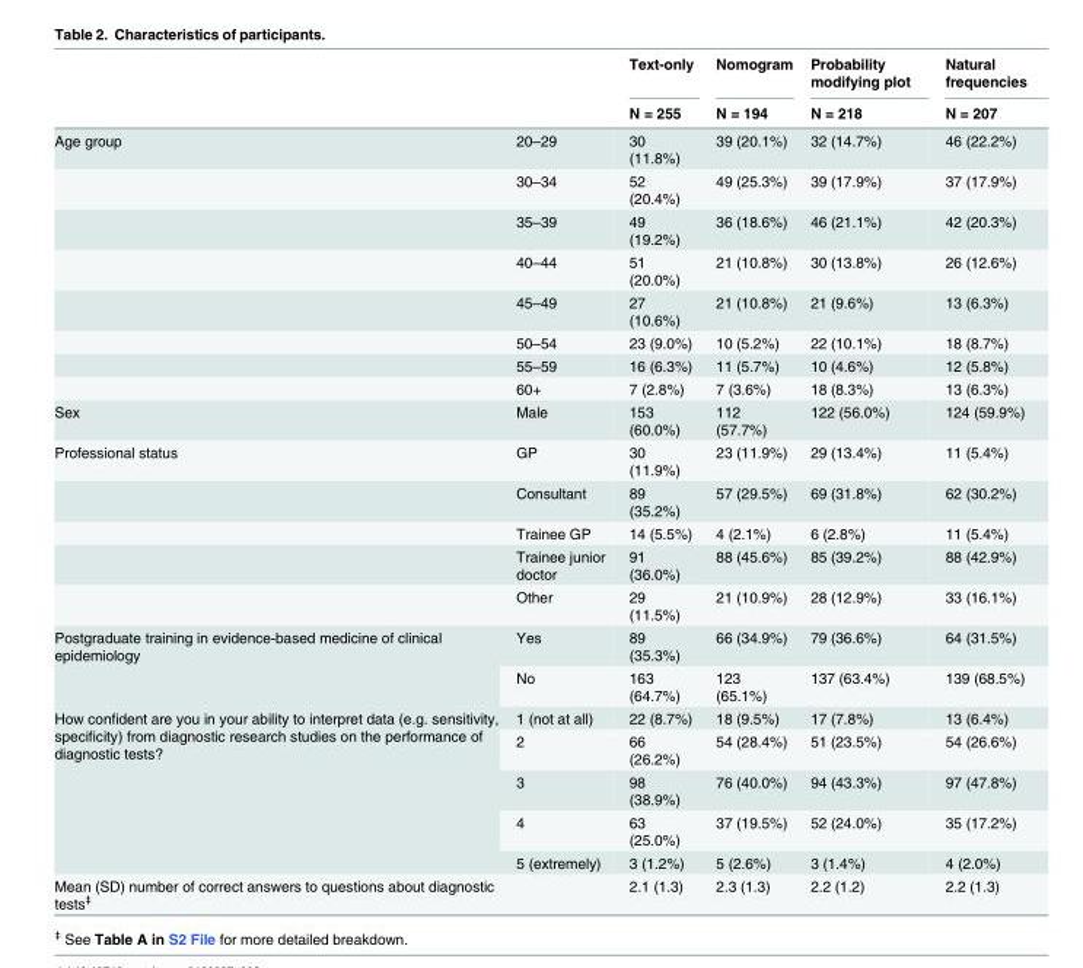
<table><thead><tr><td rowspan="2"></td><td rowspan="2"></td><td rowspan="2">Text-only N = 255</td><td rowspan="2">Nomogram N = 194</td><td rowspan="2">Probability modifying plot N = 218</td><td rowspan="2">Natural frequencies N = 207</td></tr><tr></tr></thead><tbody><tr><td rowspan="8">Age group</td><td>20–29</td><td>30 (11.8%)</td><td>39 (20.1%)</td><td>32 (14.7%)</td><td>46 (22.2%)</td></tr><tr><td>30–34</td><td>52 (20.4%)</td><td>49 (25.3%)</td><td>39 (17.9%)</td><td>37 (17.9%)</td></tr><tr><td>35–39</td><td>49 (19.2%)</td><td>36 (18.6%)</td><td>46 (21.1%)</td><td>42 (20.3%)</td></tr><tr><td>40–44</td><td>51 (20.0%)</td><td>21 (10.8%)</td><td>30 (13.8%)</td><td>26 (12.6%)</td></tr><tr><td>45–49</td><td>27 (10.6%)</td><td>21 (10.8%)</td><td>21 (9.6%)</td><td>13 (6.3%)</td></tr><tr><td>50–54</td><td>23 (9.0%)</td><td>10 (5.2%)</td><td>22 (10.1%)</td><td>18 (8.7%)</td></tr><tr><td>55–59</td><td>16 (6.3%)</td><td>11 (5.7%)</td><td>10 (4.6%)</td><td>12 (5.8%)</td></tr><tr><td>60+</td><td>7 (2.8%)</td><td>7 (3.6%)</td><td>18 (8.3%)</td><td>13 (6.3%)</td></tr><tr><td>Sex</td><td>Male</td><td>153 (60.0%)</td><td>112 (57.7%)</td><td>122 (56.0%)</td><td>124 (59.9%)</td></tr><tr><td rowspan="5">Professional status</td><td>GP</td><td>30 (11.9%)</td><td>23 (11.9%)</td><td>29 (13.4%)</td><td>11 (5.4%)</td></tr><tr><td>Consultant</td><td>89 (35.2%)</td><td>57 (29.5%)</td><td>69 (31.8%)</td><td>62 (30.2%)</td></tr><tr><td>Trainee GP</td><td>14 (5.5%)</td><td>4 (2.1%)</td><td>6 (2.8%)</td><td>11 (5.4%)</td></tr><tr><td>Trainee junior doctor</td><td>91 (36.0%)</td><td>88 (45.6%)</td><td>85 (39.2%)</td><td>88 (42.9%)</td></tr><tr><td>Other</td><td>29 (11.5%)</td><td>21 (10.9%)</td><td>28 (12.9%)</td><td>33 (16.1%)</td></tr><tr><td rowspan="2">Postgraduate training in evidence-based medicine of clinical epidemiology</td><td>Yes</td><td>89 (35.3%)</td><td>66 (34.9%)</td><td>79 (36.6%)</td><td>64 (31.5%)</td></tr><tr><td>No</td><td>163 (64.7%)</td><td>123 (65.1%)</td><td>137 (63.4%)</td><td>139 (68.5%)</td></tr><tr><td rowspan="5">How confident are you in your ability to interpret data (e.g. sensitivity, specificity) from diagnostic research studies on the performance of diagnostic tests?</td><td>1 (not at all)</td><td>22 (8.7%)</td><td>18 (9.5%)</td><td>17 (7.8%)</td><td>13 (6.4%)</td></tr><tr><td>2</td><td>66 (26.2%)</td><td>54 (28.4%)</td><td>51 (23.5%)</td><td>54 (26.6%)</td></tr><tr><td>3</td><td>98 (38.9%)</td><td>76 (40.0%)</td><td>94 (43.3%)</td><td>97 (47.8%)</td></tr><tr><td>4</td><td>63 (25.0%)</td><td>37 (19.5%)</td><td>52 (24.0%)</td><td>35 (17.2%)</td></tr><tr><td>5 (extremely)</td><td>3 (1.2%)</td><td>5 (2.6%)</td><td>3 (1.4%)</td><td>4 (2.0%)</td></tr><tr><td>Mean (SD) number of correct answers to questions about diagnostic tests<sup>‡</sup></td><td></td><td>2.1 (1.3)</td><td>2.3 (1.3)</td><td>2.2 (1.2)</td><td>2.2 (1.3)</td></tr></tbody></table>